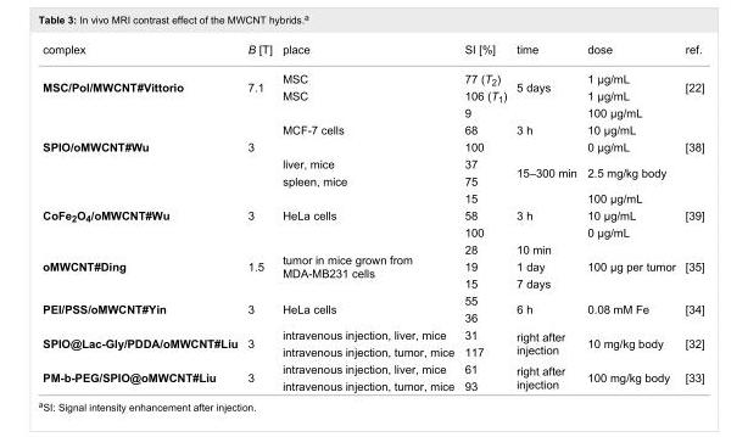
<table><tbody><tr><td>complex</td><td>B [T]</td><td>place</td><td>SI [%]</td><td>time</td><td>dose</td><td>ref.</td></tr><tr><td rowspan="2">MSC/Pol/MWCNT#Vittorio</td><td rowspan="2">7.1</td><td>MSC</td><td>77 (T<sub>2</sub>)</td><td rowspan="2">5 days</td><td>1 µg/mL</td><td rowspan="2">[22]</td></tr><tr><td>MSC</td><td>106 (T<sub>1</sub>)</td><td>1 µg/mL</td></tr><tr><td rowspan="5">SPIO/oMWCNT#Wu</td><td rowspan="5">3</td><td rowspan="3">MCF-7 cells</td><td>9</td><td rowspan="3">3 h</td><td>100 µg/mL</td><td rowspan="5">[38]</td></tr><tr><td>68</td><td>10 µg/mL</td></tr><tr><td>100</td><td>0 µg/mL</td></tr><tr><td>liver, mice</td><td>37</td><td rowspan="2">15–300 min</td><td rowspan="2">2.5 mg/kg body</td></tr><tr><td>spleen, mice</td><td>75</td></tr><tr><td rowspan="3">CoFe<sub>2</sub>O<sub>4</sub>/oMWCNT#Wu</td><td rowspan="3">3</td><td rowspan="3">HeLa cells</td><td>15</td><td rowspan="3">3 h</td><td>100 µg/mL</td><td rowspan="3">[39]</td></tr><tr><td>58</td><td>10 µg/mL</td></tr><tr><td>100</td><td>0 µg/mL</td></tr><tr><td rowspan="3">oMWCNT#Ding</td><td rowspan="3">1.5</td><td rowspan="3">tumor in mice grown from MDA-MB231 cells</td><td>28</td><td>10 min</td><td rowspan="3">100 µg per tumor</td><td rowspan="3">[35]</td></tr><tr><td>19</td><td>1 day</td></tr><tr><td>15</td><td>7 days</td></tr><tr><td rowspan="2">PEI/PSS/oMWCNT#Yin</td><td rowspan="2">3</td><td rowspan="2">HeLa cells</td><td>55</td><td rowspan="2">6 h</td><td rowspan="2">0.08 mM Fe</td><td rowspan="2">[34]</td></tr><tr><td>36</td></tr><tr><td rowspan="2">SPIO@Lac-Gly/PDDA/oMWCNT#Liu</td><td rowspan="2">3</td><td>intravenous injection, liver, mice</td><td>31</td><td rowspan="2">right after injection</td><td rowspan="2">10 mg/kg body</td><td rowspan="2">[32]</td></tr><tr><td>intravenous injection, tumor, mice</td><td>117</td></tr><tr><td rowspan="2">PM-b-PEG/SPIO@oMWCNT#Liu</td><td rowspan="2">3</td><td>intravenous injection, liver, mice</td><td>61</td><td rowspan="2">right after injection</td><td rowspan="2">100 mg/kg body</td><td rowspan="2">[33]</td></tr><tr><td>intravenous injection, tumor, mice</td><td>93</td></tr></tbody></table>